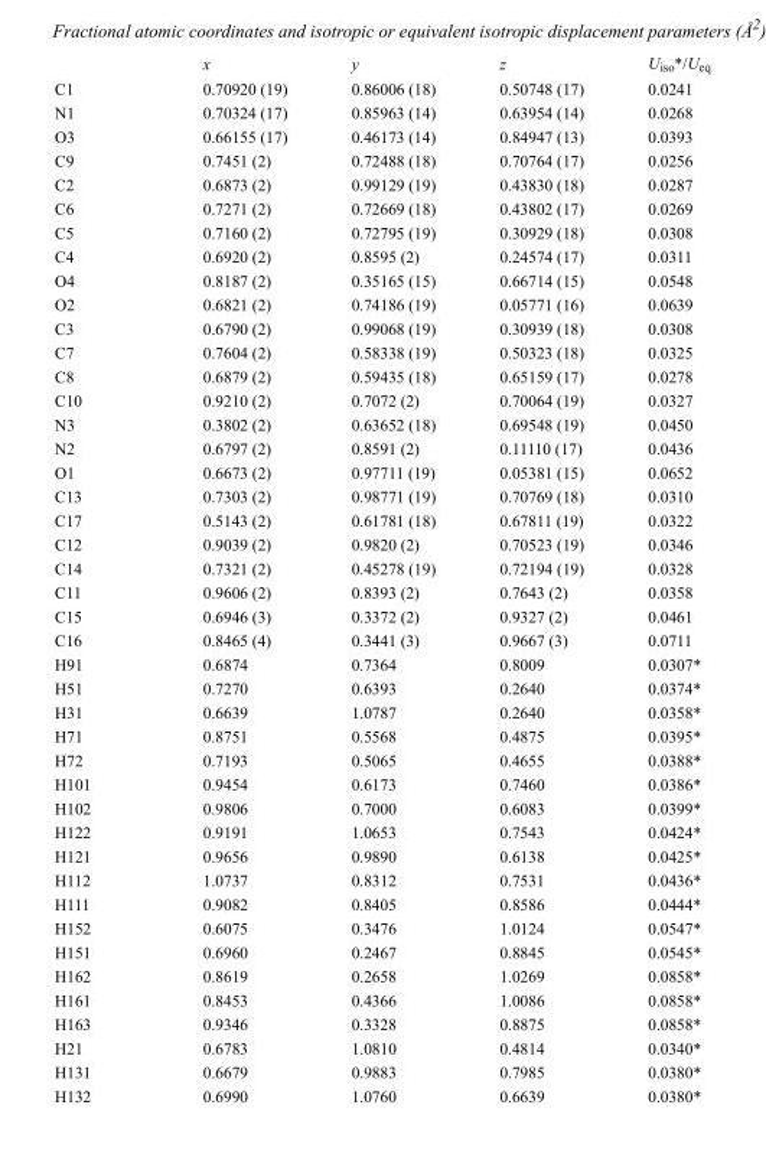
<table><thead><tr><td></td><td>x</td><td>y</td><td>z</td><td>U<sub>iso</sub>*/U<sub>eq</sub></td></tr></thead><tbody><tr><td>C1</td><td>0.70920 (19)</td><td>0.86006 (18)</td><td>0.50748 (17)</td><td>0.0241</td></tr><tr><td>N1</td><td>0.70324 (17)</td><td>0.85963 (14)</td><td>0.63954 (14)</td><td>0.0268</td></tr><tr><td>O3</td><td>0.66155 (17)</td><td>0.46173 (14)</td><td>0.84947 (13)</td><td>0.0393</td></tr><tr><td>C9</td><td>0.7451 (2)</td><td>0.72488 (18)</td><td>0.70764 (17)</td><td>0.0256</td></tr><tr><td>C2</td><td>0.6873 (2)</td><td>0.99129 (19)</td><td>0.43830 (18)</td><td>0.0287</td></tr><tr><td>C6</td><td>0.7271 (2)</td><td>0.72669 (18)</td><td>0.43802 (17)</td><td>0.0269</td></tr><tr><td>C5</td><td>0.7160 (2)</td><td>0.72795 (19)</td><td>0.30929 (18)</td><td>0.0308</td></tr><tr><td>C4</td><td>0.6920 (2)</td><td>0.8595 (2)</td><td>0.24574 (17)</td><td>0.0311</td></tr><tr><td>O4</td><td>0.8187 (2)</td><td>0.35165 (15)</td><td>0.66714 (15)</td><td>0.0548</td></tr><tr><td>O2</td><td>0.6821 (2)</td><td>0.74186 (19)</td><td>0.05771 (16)</td><td>0.0639</td></tr><tr><td>C3</td><td>0.6790 (2)</td><td>0.99068 (19)</td><td>0.30939 (18)</td><td>0.0308</td></tr><tr><td>C7</td><td>0.7604 (2)</td><td>0.58338 (19)</td><td>0.50323 (18)</td><td>0.0325</td></tr><tr><td>C8</td><td>0.6879 (2)</td><td>0.59435 (18)</td><td>0.65159 (17)</td><td>0.0278</td></tr><tr><td>C10</td><td>0.9210 (2)</td><td>0.7072 (2)</td><td>0.70064 (19)</td><td>0.0327</td></tr><tr><td>N3</td><td>0.3802 (2)</td><td>0.63652 (18)</td><td>0.69548 (19)</td><td>0.0450</td></tr><tr><td>N2</td><td>0.6797 (2)</td><td>0.8591 (2)</td><td>0.11110 (17)</td><td>0.0436</td></tr><tr><td>O1</td><td>0.6673 (2)</td><td>0.97711 (19)</td><td>0.05381 (15)</td><td>0.0652</td></tr><tr><td>C13</td><td>0.7303 (2)</td><td>0.98771 (19)</td><td>0.70769 (18)</td><td>0.0310</td></tr><tr><td>C17</td><td>0.5143 (2)</td><td>0.61781 (18)</td><td>0.67811 (19)</td><td>0.0322</td></tr><tr><td>C12</td><td>0.9039 (2)</td><td>0.9820 (2)</td><td>0.70523 (19)</td><td>0.0346</td></tr><tr><td>C14</td><td>0.7321 (2)</td><td>0.45278 (19)</td><td>0.72194 (19)</td><td>0.0328</td></tr><tr><td>C11</td><td>0.9606 (2)</td><td>0.8393 (2)</td><td>0.7643 (2)</td><td>0.0358</td></tr><tr><td>C15</td><td>0.6946 (3)</td><td>0.3372 (2)</td><td>0.9327 (2)</td><td>0.0461</td></tr><tr><td>C16</td><td>0.8465 (4)</td><td>0.3441 (3)</td><td>0.9667 (3)</td><td>0.0711</td></tr><tr><td>H91</td><td>0.6874</td><td>0.7364</td><td>0.8009</td><td>0.0307*</td></tr><tr><td>H51</td><td>0.7270</td><td>0.6393</td><td>0.2640</td><td>0.0374*</td></tr><tr><td>H31</td><td>0.6639</td><td>1.0787</td><td>0.2640</td><td>0.0358*</td></tr><tr><td>H71</td><td>0.8751</td><td>0.5568</td><td>0.4875</td><td>0.0395*</td></tr><tr><td>H72</td><td>0.7193</td><td>0.5065</td><td>0.4655</td><td>0.0388*</td></tr><tr><td>H101</td><td>0.9454</td><td>0.6173</td><td>0.7460</td><td>0.0386*</td></tr><tr><td>H102</td><td>0.9806</td><td>0.7000</td><td>0.6083</td><td>0.0399*</td></tr><tr><td>H122</td><td>0.9191</td><td>1.0653</td><td>0.7543</td><td>0.0424*</td></tr><tr><td>H121</td><td>0.9656</td><td>0.9890</td><td>0.6138</td><td>0.0425*</td></tr><tr><td>H112</td><td>1.0737</td><td>0.8312</td><td>0.7531</td><td>0.0436*</td></tr><tr><td>H111</td><td>0.9082</td><td>0.8405</td><td>0.8586</td><td>0.0444*</td></tr><tr><td>H152</td><td>0.6075</td><td>0.3476</td><td>1.0124</td><td>0.0547*</td></tr><tr><td>H151</td><td>0.6960</td><td>0.2467</td><td>0.8845</td><td>0.0545*</td></tr><tr><td>H162</td><td>0.8619</td><td>0.2658</td><td>1.0269</td><td>0.0858*</td></tr><tr><td>H161</td><td>0.8453</td><td>0.4366</td><td>1.0086</td><td>0.0858*</td></tr><tr><td>H163</td><td>0.9346</td><td>0.3328</td><td>0.8875</td><td>0.0858*</td></tr><tr><td>H21</td><td>0.6783</td><td>1.0810</td><td>0.4814</td><td>0.0340*</td></tr><tr><td>H131</td><td>0.6679</td><td>0.9883</td><td>0.7985</td><td>0.0380*</td></tr><tr><td>H132</td><td>0.6990</td><td>1.0760</td><td>0.6639</td><td>0.0380*</td></tr></tbody></table>